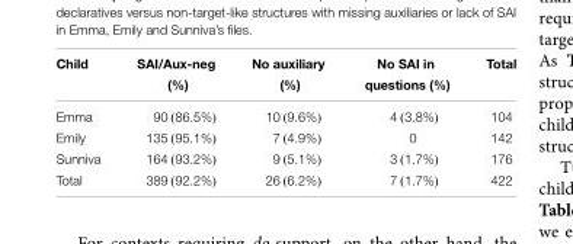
<table><thead><tr><td rowspan="2">Child</td><td rowspan="2">SAI/Aux-neg (%)</td><td rowspan="2">No auxiliary (%)</td><td rowspan="2">No SAI in questions (%)</td><td rowspan="2">Total</td></tr><tr></tr></thead><tbody><tr><td>Emma</td><td>90 (86.5%)</td><td>10 (9.6%)</td><td>4 (3.8%)</td><td>104</td></tr><tr><td>Emily</td><td>135 (95.1%)</td><td>7 (4.9%)</td><td>0</td><td>142</td></tr><tr><td>Sunniva</td><td>164 (93.2%)</td><td>9 (5.1%)</td><td>3 (1.7%)</td><td>176</td></tr><tr><td>Total</td><td>389 (92.2%)</td><td>26 (6.2%)</td><td>7 (1.7%)</td><td>422</td></tr></tbody></table>